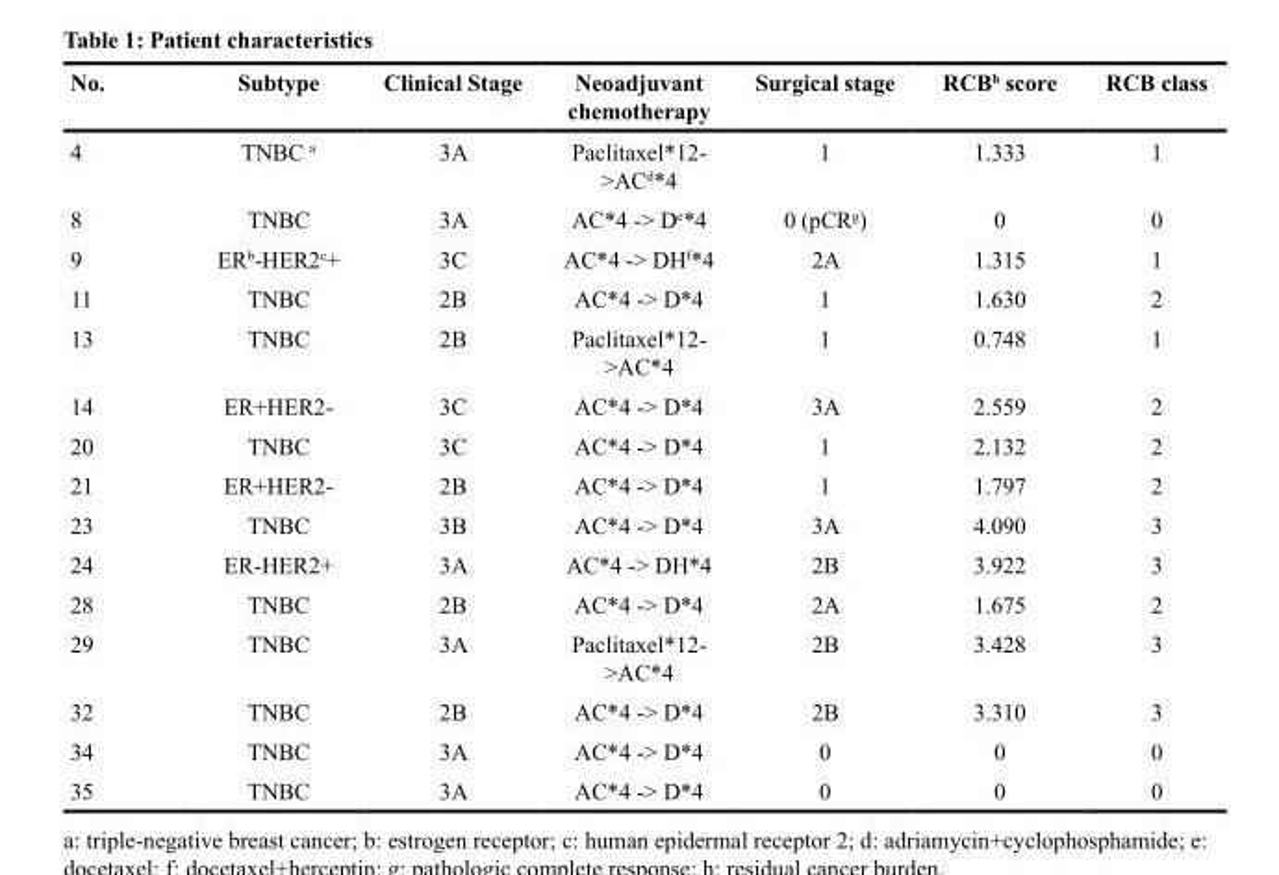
<table><thead><tr><td>No.</td><td>Subtype</td><td>Clinical Stage</td><td>Neoadjuvant chemotherapy</td><td>Surgical stage</td><td>RCB<sup>h</sup> score</td><td>RCB class</td></tr></thead><tbody><tr><td>4</td><td>TNBC <sup>a</sup></td><td>3A</td><td>Paclitaxel*12- &gt;AC<sup>d</sup>*4</td><td>1</td><td>1.333</td><td>1</td></tr><tr><td>8</td><td>TNBC</td><td>3A</td><td>AC*4 -&gt; D<sup>e</sup>*4</td><td>0 (pCR<sup>g</sup>)</td><td>0</td><td>0</td></tr><tr><td>9</td><td>ER<sup>b</sup>-HER2<sup>c</sup>+</td><td>3C</td><td>AC*4 -&gt; DH<sup>f</sup>*4</td><td>2A</td><td>1.315</td><td>1</td></tr><tr><td>11</td><td>TNBC</td><td>2B</td><td>AC*4 -&gt; D*4</td><td>1</td><td>1.630</td><td>2</td></tr><tr><td>13</td><td>TNBC</td><td>2B</td><td>Paclitaxel*12- &gt;AC*4</td><td>1</td><td>0.748</td><td>1</td></tr><tr><td>14</td><td>ER+HER2-</td><td>3C</td><td>AC*4 -&gt; D*4</td><td>3A</td><td>2.559</td><td>2</td></tr><tr><td>20</td><td>TNBC</td><td>3C</td><td>AC*4 -&gt; D*4</td><td>1</td><td>2.132</td><td>2</td></tr><tr><td>21</td><td>ER+HER2-</td><td>2B</td><td>AC*4 -&gt; D*4</td><td>1</td><td>1.797</td><td>2</td></tr><tr><td>23</td><td>TNBC</td><td>3B</td><td>AC*4 -&gt; D*4</td><td>3A</td><td>4.090</td><td>3</td></tr><tr><td>24</td><td>ER-HER2+</td><td>3A</td><td>AC*4 -&gt; DH*4</td><td>2B</td><td>3.922</td><td>3</td></tr><tr><td>28</td><td>TNBC</td><td>2B</td><td>AC*4 -&gt; D*4</td><td>2A</td><td>1.675</td><td>2</td></tr><tr><td>29</td><td>TNBC</td><td>3A</td><td>Paclitaxel*12- &gt;AC*4</td><td>2B</td><td>3.428</td><td>3</td></tr><tr><td>32</td><td>TNBC</td><td>2B</td><td>AC*4 -&gt; D*4</td><td>2B</td><td>3.310</td><td>3</td></tr><tr><td>34</td><td>TNBC</td><td>3A</td><td>AC*4 -&gt; D*4</td><td>0</td><td>0</td><td>0</td></tr><tr><td>35</td><td>TNBC</td><td>3A</td><td>AC*4 -&gt; D*4</td><td>0</td><td>0</td><td>0</td></tr></tbody></table>